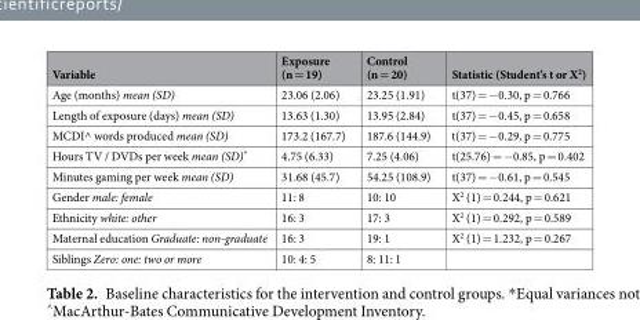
<table><thead><tr><td>Variable</td><td>Exposure (n = 19)</td><td>Control (n = 20)</td><td>Statistic (Student’s t or X<sup>2</sup>)</td></tr></thead><tbody><tr><td>Age (months) mean (SD)</td><td>23.06 (2.06)</td><td>23.25 (1.91)</td><td>t(37) = −0.30, p = 0.766</td></tr><tr><td>Length of exposure (days) mean (SD)</td><td>13.63 (1.30)</td><td>13.95 (2.84)</td><td>t(37) = −0.45, p = 0.658</td></tr><tr><td>MCDI^ words produced mean (SD)</td><td>173.2 (167.7)</td><td>187.6 (144.9)</td><td>t(37) = −0.29, p = 0.775</td></tr><tr><td>Hours TV / DVDs per week mean (SD)*</td><td>4.75 (6.33)</td><td>7.25 (4.06)</td><td>t(25.76) = −0.85, p = 0.402</td></tr><tr><td>Minutes gaming per week mean (SD)</td><td>31.68 (45.7)</td><td>54.25 (108.9)</td><td>t(37) = −0.61, p = 0.545</td></tr><tr><td>Gender male: female</td><td>11: 8</td><td>10: 10</td><td>X<sup>2</sup> (1) = 0.244, p = 0.621</td></tr><tr><td>Ethnicity white: other</td><td>16: 3</td><td>17: 3</td><td>X<sup>2</sup> (1) = 0.292, p = 0.589</td></tr><tr><td>Maternal education Graduate: non-graduate</td><td>16: 3</td><td>19: 1</td><td>X<sup>2</sup> (1) = 1.232, p = 0.267</td></tr><tr><td>Siblings Zero: one: two or more</td><td>10: 4: 5</td><td>8: 11: 1</td><td></td></tr></tbody></table>